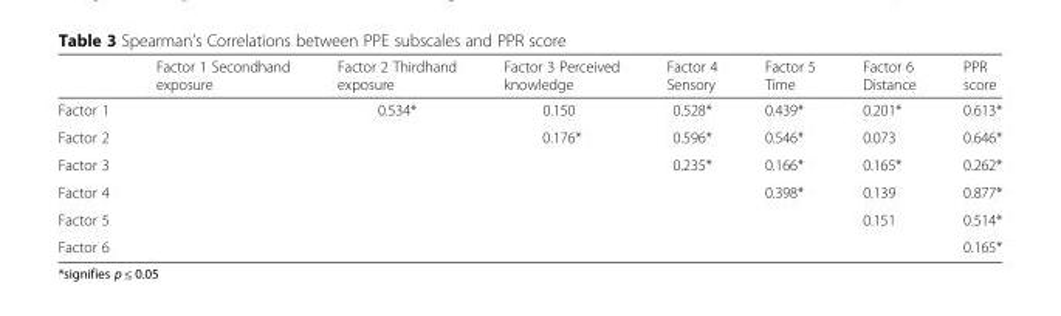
<table><thead><tr><td></td><td>Factor 1 Secondhand exposure</td><td>Factor 2 Thirdhand exposure</td><td>Factor 3 Perceived knowledge</td><td>Factor 4 Sensory</td><td>Factor 5 Time</td><td>Factor 6 Distance</td><td>PPR score</td></tr></thead><tbody><tr><td>Factor 1</td><td></td><td>0.534*</td><td>0.150</td><td>0.528*</td><td>0.439*</td><td>0.201*</td><td>0.613*</td></tr><tr><td>Factor 2</td><td></td><td></td><td>0.176*</td><td>0.596*</td><td>0.546*</td><td>0.073</td><td>0.646*</td></tr><tr><td>Factor 3</td><td></td><td></td><td></td><td>0.235*</td><td>0.166*</td><td>0.165*</td><td>0.262*</td></tr><tr><td>Factor 4</td><td></td><td></td><td></td><td></td><td>0.398*</td><td>0.139</td><td>0.877*</td></tr><tr><td>Factor 5</td><td></td><td></td><td></td><td></td><td></td><td>0.151</td><td>0.514*</td></tr><tr><td>Factor 6</td><td></td><td></td><td></td><td></td><td></td><td></td><td>0.165*</td></tr></tbody></table>